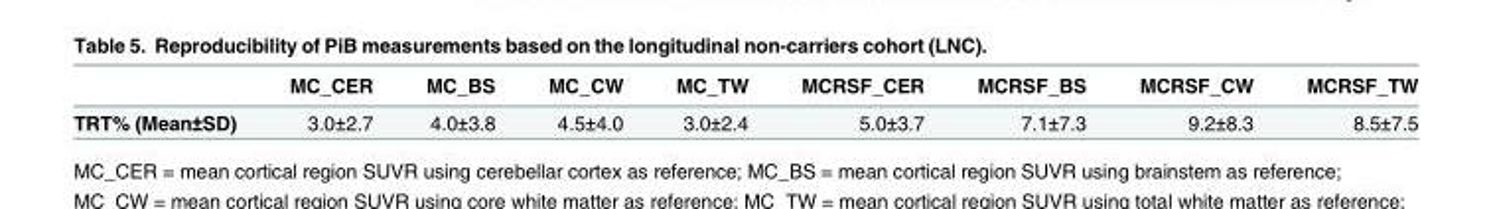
<table><thead><tr><td></td><td>MC_CER</td><td>MC_BS</td><td>MC_CW</td><td>MC_TW</td><td>MCRSF_CER</td><td>MCRSF_BS</td><td>MCRSF_CW</td><td>MCRSF_TW</td></tr></thead><tbody><tr><td>TRT% (Mean±SD)</td><td>3.0±2.7</td><td>4.0±3.8</td><td>4.5±4.0</td><td>3.0±2.4</td><td>5.0±3.7</td><td>7.1±7.3</td><td>9.2±8.3</td><td>8.5±7.5</td></tr></tbody></table>